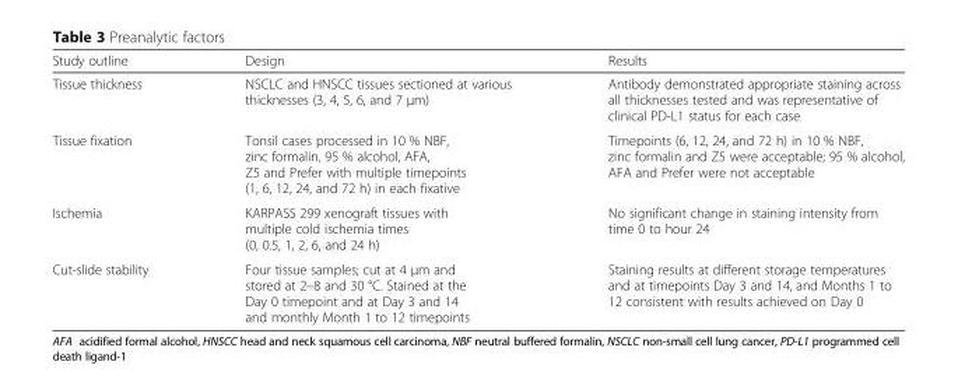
<table><thead><tr><td>Study outline</td><td>Design</td><td>Results</td></tr></thead><tbody><tr><td>Tissue thickness</td><td>NSCLC and HNSCC tissues sectioned at various thicknesses (3, 4, 5, 6, and 7 μm)</td><td>Antibody demonstrated appropriate staining across all thicknesses tested and was representative of clinical PD-L1 status for each case</td></tr><tr><td>Tissue fixation</td><td>Tonsil cases processed in 10 % NBF, zinc formalin, 95 % alcohol, AFA, Z5 and Prefer with multiple timepoints (1, 6, 12, 24, and 72 h) in each fixative</td><td>Timepoints (6, 12, 24, and 72 h) in 10 % NBF, zinc formalin and Z5 were acceptable; 95 % alcohol, AFA and Prefer were not acceptable</td></tr><tr><td>Ischemia</td><td>KARPASS 299 xenograft tissues with multiple cold ischemia times (0, 0.5, 1, 2, 6, and 24 h)</td><td>No significant change in staining intensity from time 0 to hour 24</td></tr><tr><td>Cut-slide stability</td><td>Four tissue samples; cut at 4 μm and stored at 2–8 and 30 °C. Stained at the Day 0 timepoint and at Day 3 and 14 and monthly Month 1 to 12 timepoints</td><td>Staining results at different storage temperatures and at timepoints Day 3 and 14, and Months 1 to 12 consistent with results achieved on Day 0</td></tr></tbody></table>